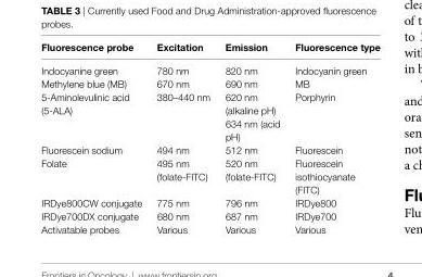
<table><thead><tr><td>Fluorescence probe</td><td>excitation</td><td>emission</td><td>Fluorescence type</td></tr></thead><tbody><tr><td>Indocyanine green</td><td>780 nm</td><td>820 nm</td><td>Indocyanin green</td></tr><tr><td>Methylene blue (MB)</td><td>670 nm</td><td>690 nm</td><td>MB</td></tr><tr><td>5-Aminolevulinic acid (5-ALA)</td><td>380–440 nm</td><td>620 nm (alkaline pH) 634 nm (acid pH)</td><td>Porphyrin</td></tr><tr><td>Fluorescein sodium</td><td>494 nm</td><td>512 nm</td><td>Fluorescein</td></tr><tr><td>Folate</td><td>495 nm (folate-FITC)</td><td>520 nm (folate-FITC)</td><td>Fluorescein isothiocyanate (FITC)</td></tr><tr><td>IRDye800CW conjugate</td><td>775 nm</td><td>796 nm</td><td>IRDye800</td></tr><tr><td>IRDye700DX conjugate</td><td>680 nm</td><td>687 nm</td><td>IRDye700</td></tr><tr><td>Activatable probes</td><td>Various</td><td>Various</td><td>Various</td></tr></tbody></table>